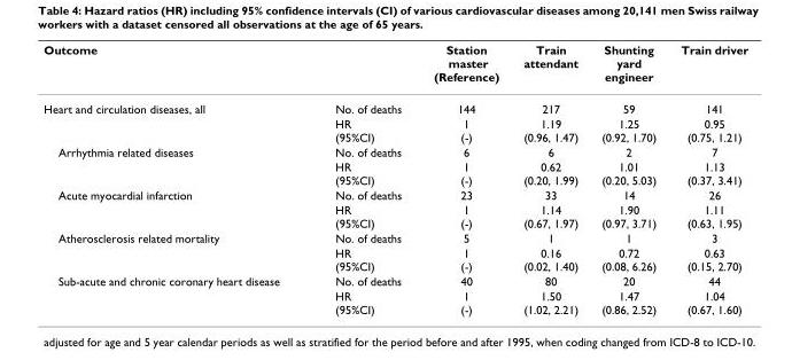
<table><thead><tr><td>Outcome</td><td></td><td>Station master (Reference)</td><td>Train attendant</td><td>Shunting yard engineer</td><td>Train driver</td></tr></thead><tbody><tr><td rowspan="2">Heart and circulation diseases, all</td><td>No. of deaths</td><td>144</td><td>217</td><td>59</td><td>141</td></tr><tr><td>HR (95%CI)</td><td>1 (-)</td><td>1.19 (0.96, 1.47)</td><td>1.25 (0.92, 1.70)</td><td>0.95 (0.75, 1.21)</td></tr><tr><td rowspan="2">Arrhythmia related diseases</td><td>No. of deaths</td><td>6</td><td>6</td><td>2</td><td>7</td></tr><tr><td>HR (95%CI)</td><td>1 (-)</td><td>0.62 (0.20, 1.99)</td><td>1.01 (0.20, 5.03)</td><td>1.13 (0.37, 3.41)</td></tr><tr><td rowspan="2">Acute myocardial infarction</td><td>No. of deaths</td><td>23</td><td>33</td><td>14</td><td>26</td></tr><tr><td>HR (95%CI)</td><td>1 (-)</td><td>1.14 (0.67, 1.97)</td><td>1.90 (0.97, 3.71)</td><td>1.11 (0.63, 1.95)</td></tr><tr><td rowspan="2">Atherosclerosis related mortality</td><td>No. of deaths</td><td>5</td><td>1</td><td>1</td><td>3</td></tr><tr><td>HR (95%CI)</td><td>1 (-)</td><td>0.16 (0.02, 1.40)</td><td>0.72 (0.08, 6.26)</td><td>0.63 (0.15, 2.70)</td></tr><tr><td rowspan="2">Sub-acute and chronic coronary heart disease</td><td>No. of deaths</td><td>40</td><td>80</td><td>20</td><td>44</td></tr><tr><td>HR (95%CI)</td><td>1 (-)</td><td>1.50 (1.02, 2.21)</td><td>1.47 (0.86, 2.52)</td><td>1.04 (0.67, 1.60)</td></tr></tbody></table>